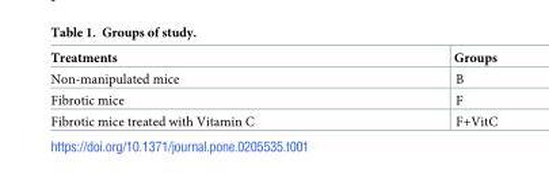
<table><thead><tr><td>Treatments</td><td>Groups</td></tr></thead><tbody><tr><td>Non-manipulated mice</td><td>B</td></tr><tr><td>Fibrotic mice</td><td>F</td></tr><tr><td>Fibrotic mice treated with Vitamin C</td><td>F+VitC</td></tr></tbody></table>